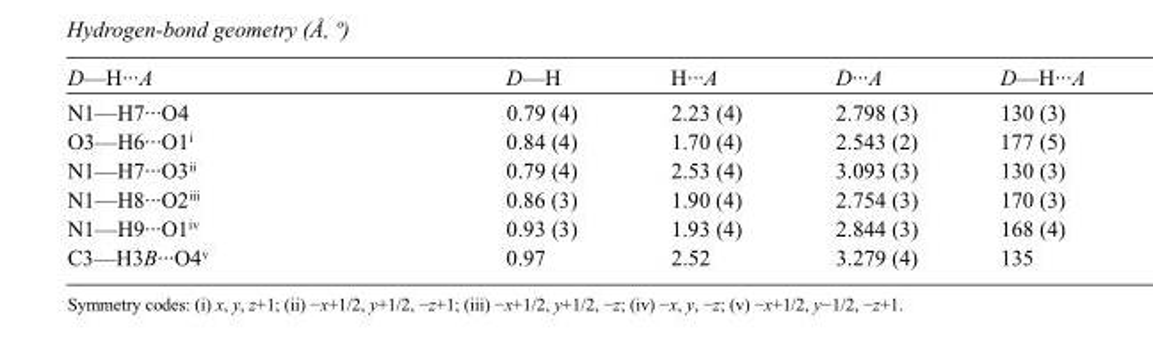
<table><tbody><tr><td>D—H···A</td><td>D—H</td><td>H···A</td><td>D···A</td><td>D—H···A</td></tr><tr><td>N1—H7···O4</td><td>0.79 (4)</td><td>2.23 (4)</td><td>2.798 (3)</td><td>130 (3)</td></tr><tr><td>O3—H6···O1<sup>i</sup></td><td>0.84 (4)</td><td>1.70 (4)</td><td>2.543 (2)</td><td>177 (5)</td></tr><tr><td>N1—H7···O3<sup>ii</sup></td><td>0.79 (4)</td><td>2.53 (4)</td><td>3.093 (3)</td><td>130 (3)</td></tr><tr><td>N1—H8···O2<sup>iii</sup></td><td>0.86 (3)</td><td>1.90 (4)</td><td>2.754 (3)</td><td>170 (3)</td></tr><tr><td>N1—H9···O1<sup>iv</sup></td><td>0.93 (3)</td><td>1.93 (4)</td><td>2.844 (3)</td><td>168 (4)</td></tr><tr><td>C3—H3B···O4<sup>v</sup></td><td>0.97</td><td>2.52</td><td>3.279 (4)</td><td>135</td></tr></tbody></table>